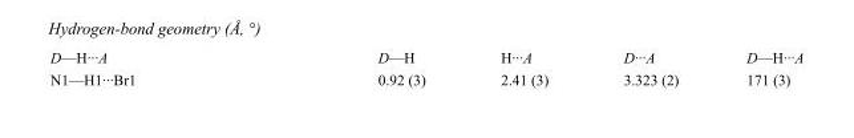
<table><tbody><tr><td>D—H···A</td><td>D—H</td><td>H···A</td><td>D···A</td><td>D—H···A</td></tr><tr><td>N1—H1···Br1</td><td>0.92 (3)</td><td>2.41 (3)</td><td>3.323 (2)</td><td>171 (3)</td></tr></tbody></table>